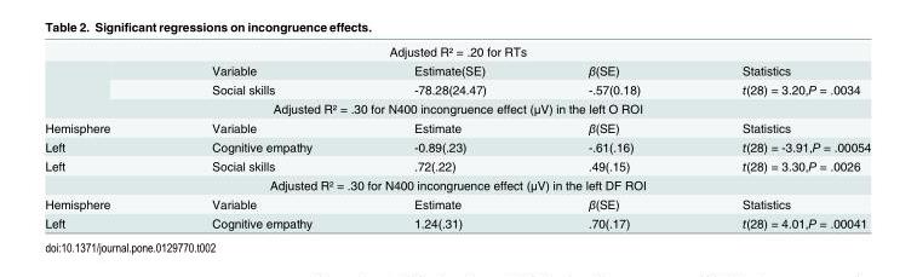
<table><tbody><tr><td colspan="5">Adjusted R² = .20 for RTs</td></tr><tr><td rowspan="2"></td><td>Variable</td><td>Estimate(SE)</td><td>β(SE)</td><td>Statistics</td></tr><tr><td>Social skills</td><td>-78.28(24.47)</td><td>-.57(0.18)</td><td>t(28) = 3.20,P = .0034</td></tr><tr><td colspan="5">Adjusted R² = .30 for N400 incongruence effect (μV) in the left O ROI</td></tr><tr><td>Hemisphere</td><td>Variable</td><td>Estimate</td><td>β(SE)</td><td>Statistics</td></tr><tr><td>Left</td><td>Cognitive empathy</td><td>-0.89(.23)</td><td>-.61(.16)</td><td>t(28) = -3.91,P = .00054</td></tr><tr><td>Left</td><td>Social skills</td><td>.72(.22)</td><td>.49(.15)</td><td>t(28) = 3.30,P = .0026</td></tr><tr><td colspan="5">Adjusted R² = .30 for N400 incongruence effect (μV) in the left DF ROI</td></tr><tr><td>Hemisphere</td><td>Variable</td><td>Estimate</td><td>β(SE)</td><td>Statistics</td></tr><tr><td>Left</td><td>Cognitive empathy</td><td>1.24(.31)</td><td>.70(.17)</td><td>t(28) = 4.01,P = .00041</td></tr></tbody></table>